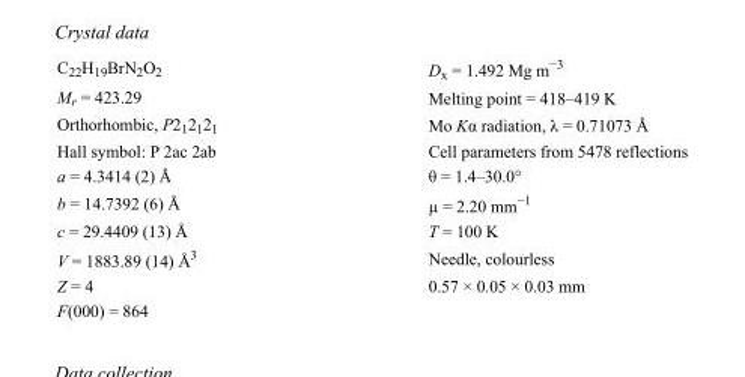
<table><tbody><tr><td>C<sub>22</sub>H<sub>19</sub>BrN<sub>2</sub>O<sub>2</sub></td><td>D<sub>x</sub> = 1.492 Mg m<sup>−3</sup></td></tr><tr><td>M<sub>r</sub> = 423.29</td><td>Melting point = 418–419 K</td></tr><tr><td>Orthorhombic, P2<sub>1</sub>2<sub>1</sub>2<sub>1</sub></td><td>Mo Kα radiation, λ = 0.71073 Å</td></tr><tr><td>Hall symbol: P 2ac 2ab</td><td>Cell parameters from 5478 reflections</td></tr><tr><td>a = 4.3414 (2) Å</td><td>θ = 1.4–30.0°</td></tr><tr><td>b = 14.7392 (6) Å</td><td>µ = 2.20 mm<sup>−1</sup></td></tr><tr><td>c = 29.4409 (13) Å</td><td>T = 100 K</td></tr><tr><td>V = 1883.89 (14) Å<sup>3</sup></td><td>Needle, colourless</td></tr><tr><td>Z = 4</td><td>0.57 × 0.05 × 0.03 mm</td></tr><tr><td>F(000) = 864</td><td></td></tr></tbody></table>